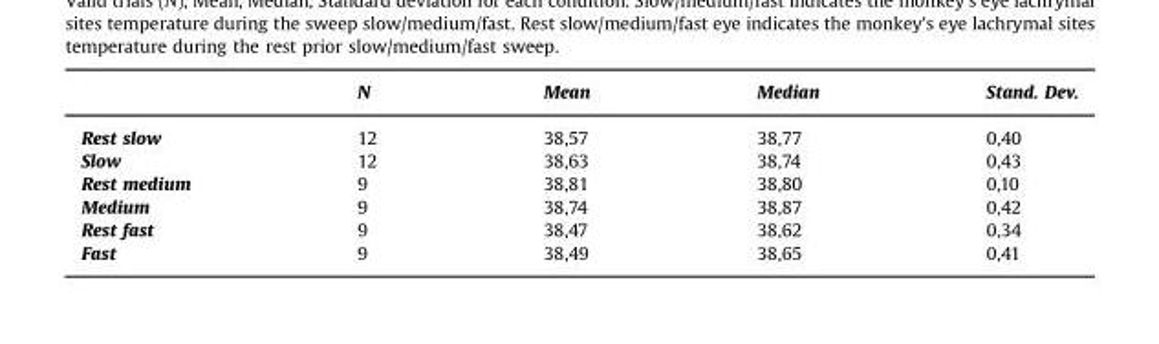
<table><thead><tr><td></td><td>N</td><td>Mean</td><td>Median</td><td>Stand. Dev.</td></tr></thead><tbody><tr><td>Rest slow</td><td>12</td><td>38,57</td><td>38,77</td><td>0,40</td></tr><tr><td>Slow</td><td>12</td><td>38,63</td><td>38,74</td><td>0,43</td></tr><tr><td>Rest medium</td><td>9</td><td>38,81</td><td>38,80</td><td>0,10</td></tr><tr><td>Medium</td><td>9</td><td>38,74</td><td>38,87</td><td>0,42</td></tr><tr><td>Rest fast</td><td>9</td><td>38,47</td><td>38,62</td><td>0,34</td></tr><tr><td>Fast</td><td>9</td><td>38,49</td><td>38,65</td><td>0,41</td></tr></tbody></table>